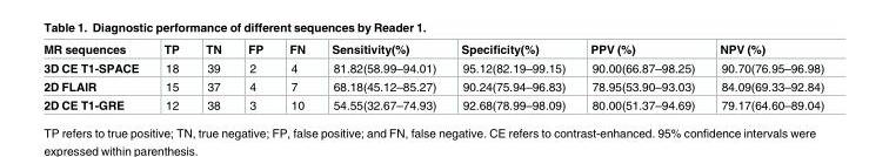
<table><thead><tr><td>MR sequences</td><td>TP</td><td>TN</td><td>FP</td><td>FN</td><td>Sensitivity(%)</td><td>Specificity(%)</td><td>PPV (%)</td><td>NPV (%)</td></tr></thead><tbody><tr><td>3D CE T1-SPACE</td><td>18</td><td>39</td><td>2</td><td>4</td><td>81.82(58.99–94.01)</td><td>95.12(82.19–99.15)</td><td>90.00(66.87–98.25)</td><td>90.70(76.95–96.98)</td></tr><tr><td>2D FLAIR</td><td>15</td><td>37</td><td>4</td><td>7</td><td>68.18(45.12–85.27)</td><td>90.24(75.94–96.83)</td><td>78.95(53.90–93.03)</td><td>84.09(69.33–92.84)</td></tr><tr><td>2D CE T1-GRE</td><td>12</td><td>38</td><td>3</td><td>10</td><td>54.55(32.67–74.93)</td><td>92.68(78.99–98.09)</td><td>80.00(51.37–94.69)</td><td>79.17(64.60–89.04)</td></tr></tbody></table>